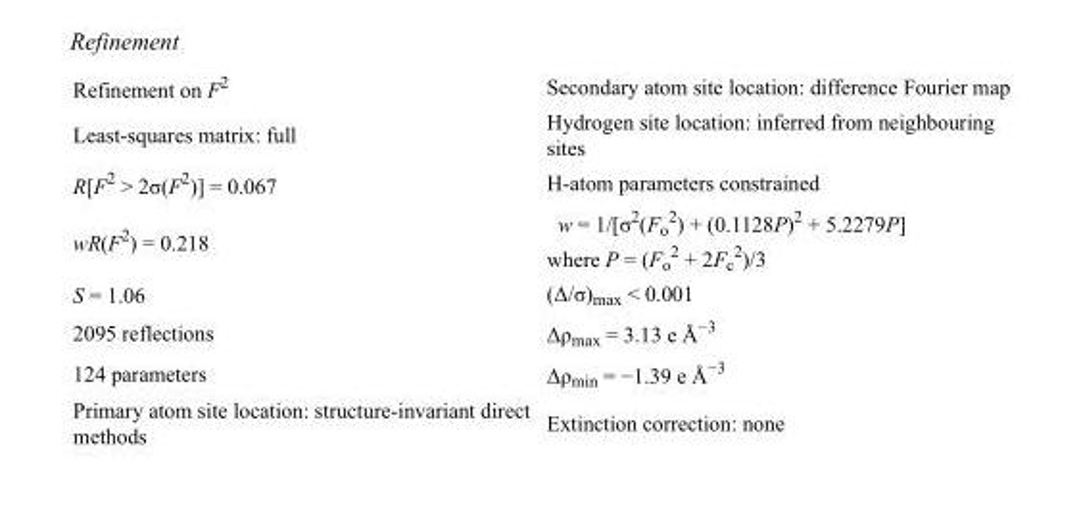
<table><tbody><tr><td>Refinement on F<sup>2</sup></td><td>Secondary atom site location: difference Fourier map</td></tr><tr><td>Least-squares matrix: full</td><td>Hydrogen site location: inferred from neighbouring sites</td></tr><tr><td>R[F<sup>2</sup> &gt; 2σ(F<sup>2</sup>)] = 0.067</td><td>H-atom parameters constrained</td></tr><tr><td>wR(F<sup>2</sup>) = 0.218</td><td>w = 1/[σ<sup>2</sup>(F<sub>o</sub> <sup>2</sup>) + (0.1128P)<sup>2</sup> + 5.2279P] where P = (F<sub>o</sub> <sup>2</sup> + 2F<sub>c</sub> <sup>2</sup>)/3</td></tr><tr><td>S = 1.06</td><td>(Δ/σ)<sub>max</sub> &lt; 0.001</td></tr><tr><td>2095 reflections</td><td>Δρ<sub>max</sub> = 3.13 e Å<sup>−3</sup></td></tr><tr><td>124 parameters</td><td>Δρ<sub>min</sub> = −1.39 e Å<sup>−3</sup></td></tr><tr><td>Primary atom site location: structure-invariant direct methods</td><td>Extinction correction: none</td></tr></tbody></table>